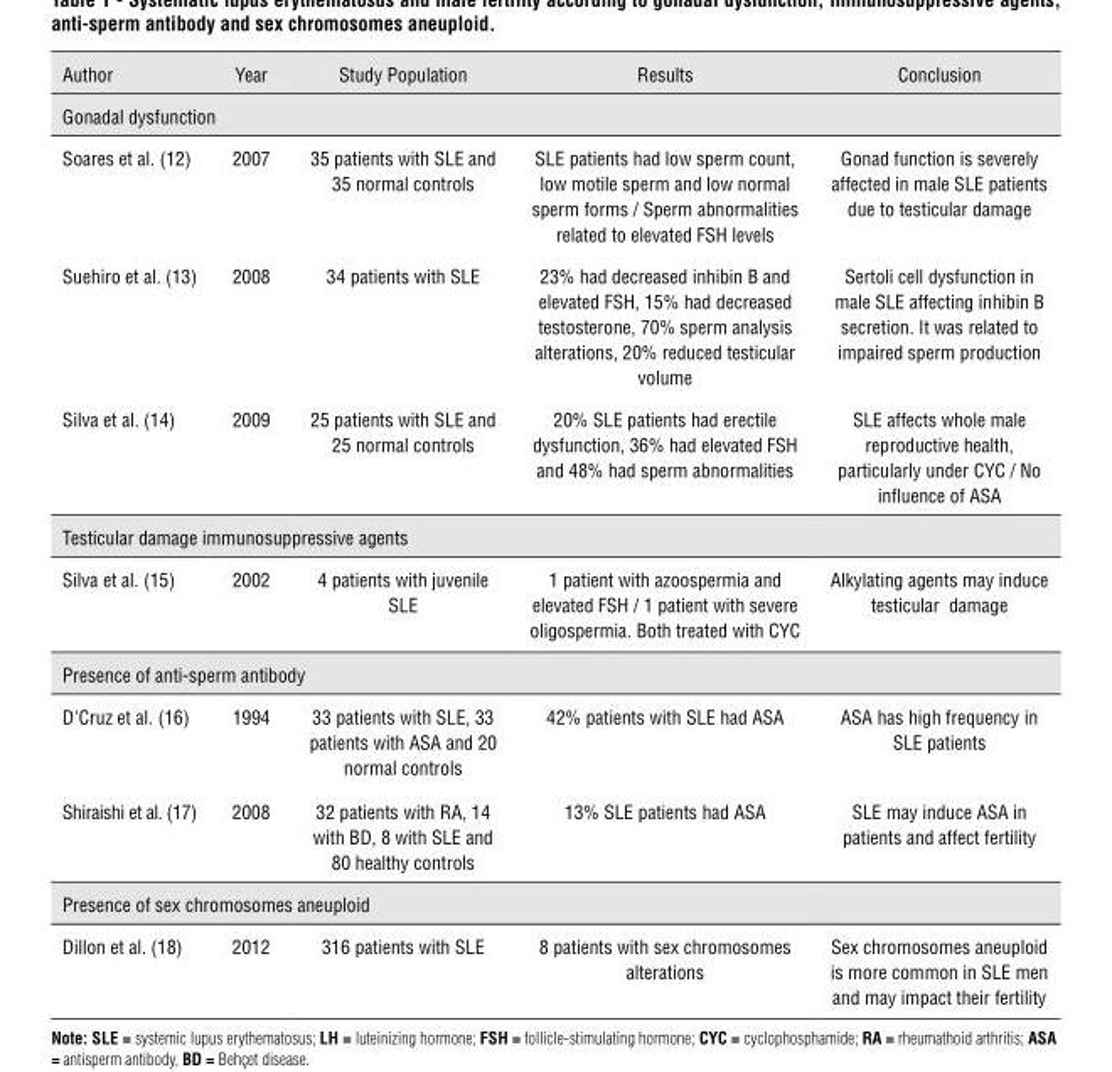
<table><thead><tr><td>Author</td><td>Year</td><td>Study Population</td><td>Results</td><td>Conclusion</td></tr></thead><tbody><tr><td colspan="5">Gonadal dysfunction</td></tr><tr><td>Soares et al. (12)</td><td>2007</td><td>35 patients with SLE and 35 normal controls</td><td>SLE patients had low sperm count, low motile sperm and low normal sperm forms / Sperm abnormalities related to elevated FSH levels</td><td>Gonad function is severely affected in male SLE patients due to testicular damage</td></tr><tr><td>Suehiro et al. (13)</td><td>2008</td><td>34 patients with SLE</td><td>23% had decreased inhibin B and elevated FSH, 15% had decreased testosterone, 70% sperm analysis alterations, 20% reduced testicular volume</td><td>Sertoli cell dysfunction in male SLE affecting inhibin B secretion. It was related to impaired sperm production</td></tr><tr><td>Silva et al. (14)</td><td>2009</td><td>25 patients with SLE and 25 normal controls</td><td>20% SLE patients had erectile dysfunction, 36% had elevated FSH and 48% had sperm abnormalities</td><td>SLE affects whole male reproductive health, particularly under CYC / No influence of ASA</td></tr><tr><td colspan="5">Testicular damage immunosuppressive agents</td></tr><tr><td>Silva et al. (15)</td><td>2002</td><td>4 patients with juvenile SLE</td><td>1 patient with azoospermia and elevated FSH / 1 patient with severe oligospermia. Both treated with CYC</td><td>Alkylating agents may induce testicular damage</td></tr><tr><td colspan="5">Presence of anti-sperm antibody</td></tr><tr><td>D&#x27;Cruz et al. (16)</td><td>1994</td><td>33 patients with SLE, 33 patients with ASA and 20 normal controls</td><td>42% patients with SLE had ASA</td><td>ASA has high frequency in SLE patients</td></tr><tr><td>Shiraishi et al. (17)</td><td>2008</td><td>32 patients with RA, 14 with BD, 8 with SLE and 80 healthy controls</td><td>13% SLE patients had ASA</td><td>SLE may induce ASA in patients and affect fertility</td></tr><tr><td colspan="5">Presence of sex chromosomes aneuploid</td></tr><tr><td>Dillon et al. (18)</td><td>2012</td><td>316 patients with SLE</td><td>8 patients with sex chromosomes alterations</td><td>Sex chromosomes aneuploid is more common in SLE men and may impact their fertility</td></tr></tbody></table>